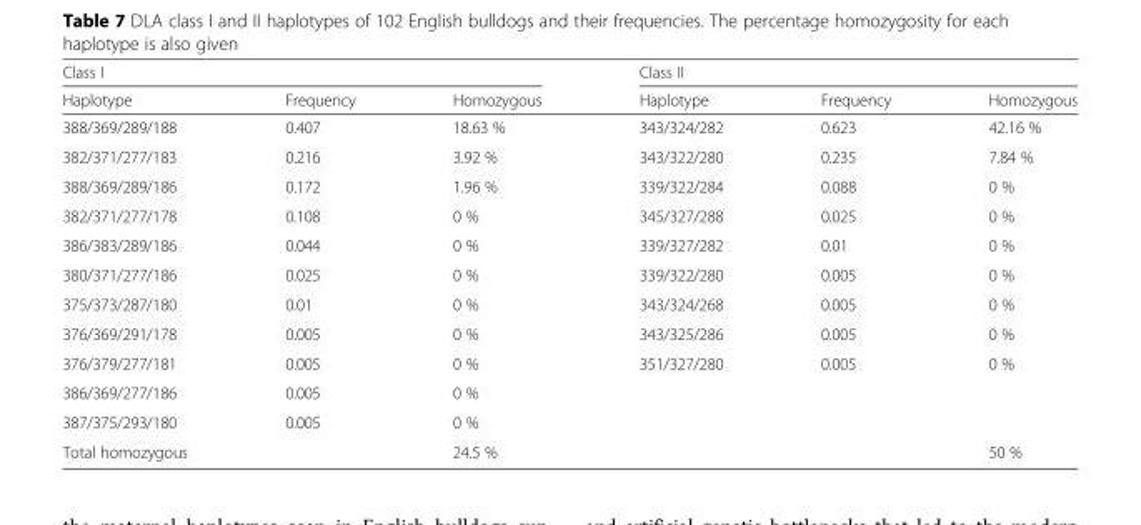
<table><thead><tr><td colspan="3">Class I</td><td colspan="3">Class II</td></tr><tr><td>Haplotype</td><td>Frequency</td><td>Homozygous</td><td>Haplotype</td><td>Frequency</td><td>Homozygous</td></tr></thead><tbody><tr><td>388/369/289/188</td><td>0.407</td><td>18.63 %</td><td>343/324/282</td><td>0.623</td><td>42.16 %</td></tr><tr><td>382/371/277/183</td><td>0.216</td><td>3.92 %</td><td>343/322/280</td><td>0.235</td><td>7.84 %</td></tr><tr><td>388/369/289/186</td><td>0.172</td><td>1.96 %</td><td>339/322/284</td><td>0.088</td><td>0 %</td></tr><tr><td>382/371/277/178</td><td>0.108</td><td>0 %</td><td>345/327/288</td><td>0.025</td><td>0 %</td></tr><tr><td>386/383/289/186</td><td>0.044</td><td>0 %</td><td>339/327/282</td><td>0.01</td><td>0 %</td></tr><tr><td>380/371/277/186</td><td>0.025</td><td>0 %</td><td>339/322/280</td><td>0.005</td><td>0 %</td></tr><tr><td>375/373/287/180</td><td>0.01</td><td>0 %</td><td>343/324/268</td><td>0.005</td><td>0 %</td></tr><tr><td>376/369/291/178</td><td>0.005</td><td>0 %</td><td>343/325/286</td><td>0.005</td><td>0 %</td></tr><tr><td>376/379/277/181</td><td>0.005</td><td>0 %</td><td>351/327/280</td><td>0.005</td><td>0 %</td></tr><tr><td>386/369/277/186</td><td>0.005</td><td>0 %</td><td></td><td></td><td></td></tr><tr><td>387/375/293/180</td><td>0.005</td><td>0 %</td><td></td><td></td><td></td></tr><tr><td>Total homozygous</td><td></td><td>24.5 %</td><td></td><td></td><td>50 %</td></tr></tbody></table>